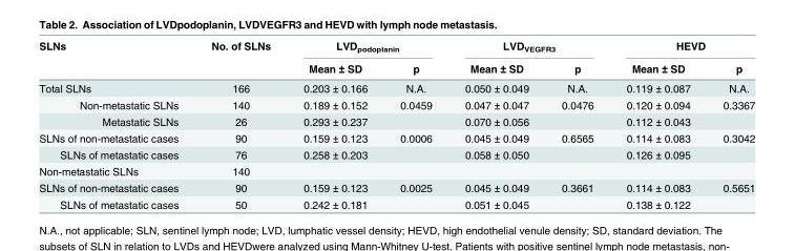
<table><thead><tr><td rowspan="2">SLNs</td><td rowspan="2">No. of SLNs</td><td colspan="2">LVD<sub>podoplanin</sub></td><td colspan="2">LVD<sub>VEGFR3</sub></td><td colspan="2">HEVD</td></tr><tr><td>Mean ± SD</td><td>p</td><td>Mean ± SD</td><td>p</td><td>Mean ± SD</td><td>p</td></tr></thead><tbody><tr><td>Total SLNs</td><td>166</td><td>0.203 ± 0.166</td><td>N.A.</td><td>0.050 ± 0.049</td><td>N.A.</td><td>0.119 ± 0.087</td><td>N.A.</td></tr><tr><td>Non-metastatic SLNs</td><td>140</td><td>0.189 ± 0.152</td><td>0.0459</td><td>0.047 ± 0.047</td><td>0.0476</td><td>0.120 ± 0.094</td><td>0.3367</td></tr><tr><td>Metastatic SLNs</td><td>26</td><td>0.293 ± 0.237</td><td></td><td>0.070 ± 0.056</td><td></td><td>0.112 ± 0.043</td><td></td></tr><tr><td>SLNs of non-metastatic cases</td><td>90</td><td>0.159 ± 0.123</td><td>0.0006</td><td>0.045 ± 0.049</td><td>0.6565</td><td>0.114 ± 0.083</td><td>0.3042</td></tr><tr><td>SLNs of metastatic cases</td><td>76</td><td>0.258 ± 0.203</td><td></td><td>0.058 ± 0.050</td><td></td><td>0.126 ± 0.095</td><td></td></tr><tr><td>Non-metastatic SLNs</td><td>140</td><td></td><td></td><td></td><td></td><td></td><td></td></tr><tr><td>SLNs of non-metastatic cases</td><td>90</td><td>0.159 ± 0.123</td><td>0.0025</td><td>0.045 ± 0.049</td><td>0.3661</td><td>0.114 ± 0.083</td><td>0.5651</td></tr><tr><td>SLNs of metastatic cases</td><td>50</td><td>0.242 ± 0.181</td><td></td><td>0.051 ± 0.045</td><td></td><td>0.138 ± 0.122</td><td></td></tr></tbody></table>